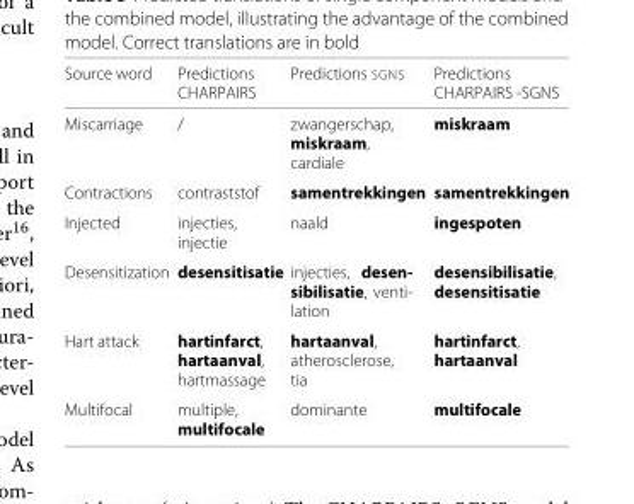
<table><thead><tr><td>Source word</td><td>Predictions CHARPAIRS</td><td>Predictions SGNS</td><td>Predictions CHARPAIRS -SGNS</td></tr></thead><tbody><tr><td>Miscarriage</td><td>/</td><td>zwangerschap, miskraam, cardiale</td><td>miskraam</td></tr><tr><td>Contractions</td><td>contraststof</td><td>samentrekkingen</td><td>samentrekkingen</td></tr><tr><td>Injected</td><td>injecties, injectie</td><td>naald</td><td>ingespoten</td></tr><tr><td>Desensitization</td><td>desensitisatie</td><td>injecties, desen- sibilisatie, venti- lation</td><td>desensibilisatie, desensitisatie</td></tr><tr><td>Hart attack</td><td>hartinfarct, hartaanval, hartmassage</td><td>hartaanval, atherosclerose, tia</td><td>hartinfarct, hartaanval</td></tr><tr><td>Multifocal</td><td>multiple, multifocale</td><td>dominante</td><td>multifocale</td></tr></tbody></table>